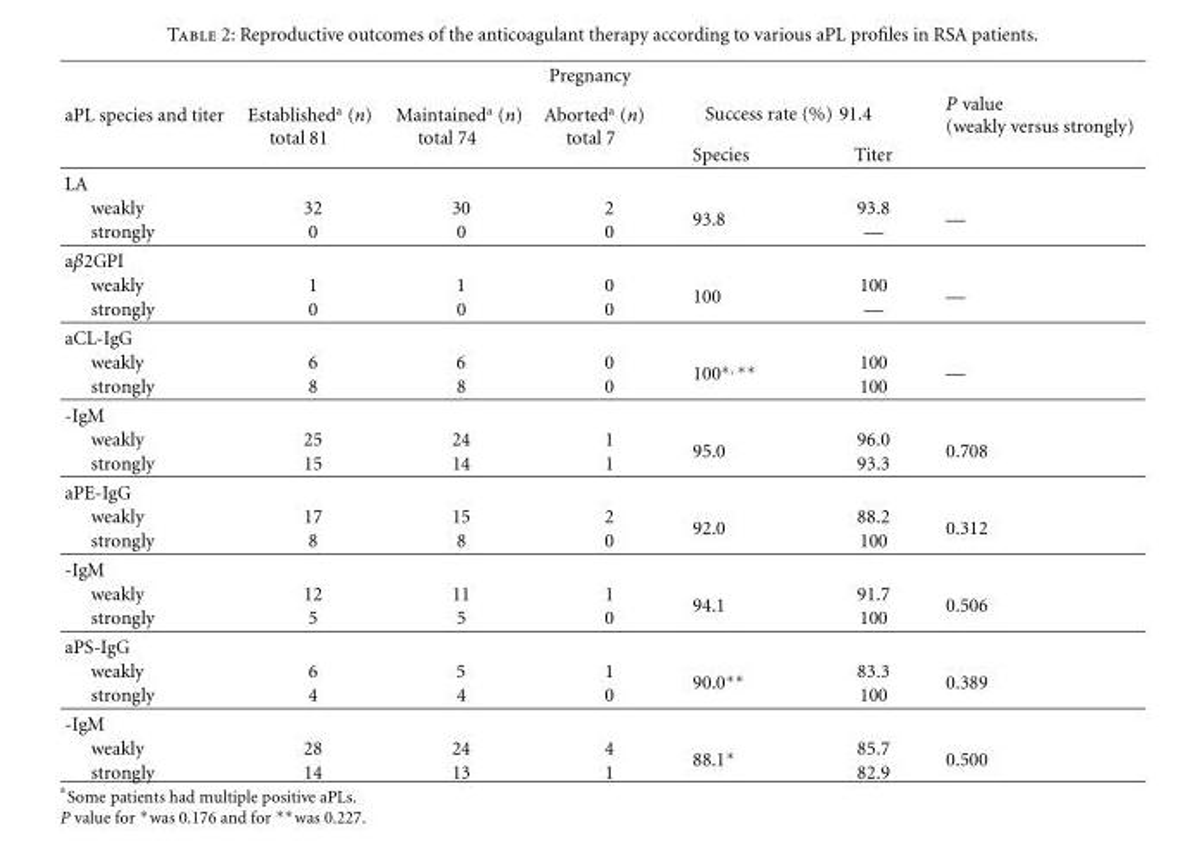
<table><thead><tr><td rowspan="3">aPL species and titer</td><td colspan="5">Pregnancy</td><td rowspan="3">P value (weakly versus strongly)</td></tr><tr><td rowspan="2">Established<sup>a</sup> (n) total 81</td><td rowspan="2">Maintained<sup>a</sup> (n) total 74</td><td rowspan="2">Aborted<sup>a</sup> (n) total 7</td><td colspan="2">Success rate (%) 91.4</td></tr><tr><td>Species</td><td>Titer</td></tr></thead><tbody><tr><td colspan="7">LA</td></tr><tr><td>weakly</td><td>32</td><td>30</td><td>2</td><td rowspan="2">93.8</td><td>93.8</td><td rowspan="2">—</td></tr><tr><td>strongly</td><td>0</td><td>0</td><td>0</td><td>—</td></tr><tr><td colspan="7">aβ2GPI</td></tr><tr><td>weakly</td><td>1</td><td>1</td><td>0</td><td rowspan="2">100</td><td>100</td><td rowspan="2">—</td></tr><tr><td>strongly</td><td>0</td><td>0</td><td>0</td><td>—</td></tr><tr><td colspan="7">aCL-IgG</td></tr><tr><td>weakly</td><td>6</td><td>6</td><td>0</td><td rowspan="2">100<sup>∗, ∗∗</sup></td><td>100</td><td rowspan="2">—</td></tr><tr><td>strongly</td><td>8</td><td>8</td><td>0</td><td>100</td></tr><tr><td colspan="7">-IgM</td></tr><tr><td>weakly</td><td>25</td><td>24</td><td>1</td><td rowspan="2">95.0</td><td>96.0</td><td rowspan="2">0.708</td></tr><tr><td>strongly</td><td>15</td><td>14</td><td>1</td><td>93.3</td></tr><tr><td colspan="7">aPE-IgG</td></tr><tr><td>weakly</td><td>17</td><td>15</td><td>2</td><td rowspan="2">92.0</td><td>88.2</td><td rowspan="2">0.312</td></tr><tr><td>strongly</td><td>8</td><td>8</td><td>0</td><td>100</td></tr><tr><td colspan="7">-IgM</td></tr><tr><td>weakly</td><td>12</td><td>11</td><td>1</td><td rowspan="2">94.1</td><td>91.7</td><td rowspan="2">0.506</td></tr><tr><td>strongly</td><td>5</td><td>5</td><td>0</td><td>100</td></tr><tr><td colspan="7">aPS-IgG</td></tr><tr><td>weakly</td><td>6</td><td>5</td><td>1</td><td rowspan="2">90.0∗∗</td><td>83.3</td><td rowspan="2">0.389</td></tr><tr><td>strongly</td><td>4</td><td>4</td><td>0</td><td>100</td></tr><tr><td colspan="7">-IgM</td></tr><tr><td>weakly</td><td>28</td><td>24</td><td>4</td><td rowspan="2">88.1∗</td><td>85.7</td><td rowspan="2">0.500</td></tr><tr><td>strongly</td><td>14</td><td>13</td><td>1</td><td>82.9</td></tr></tbody></table>